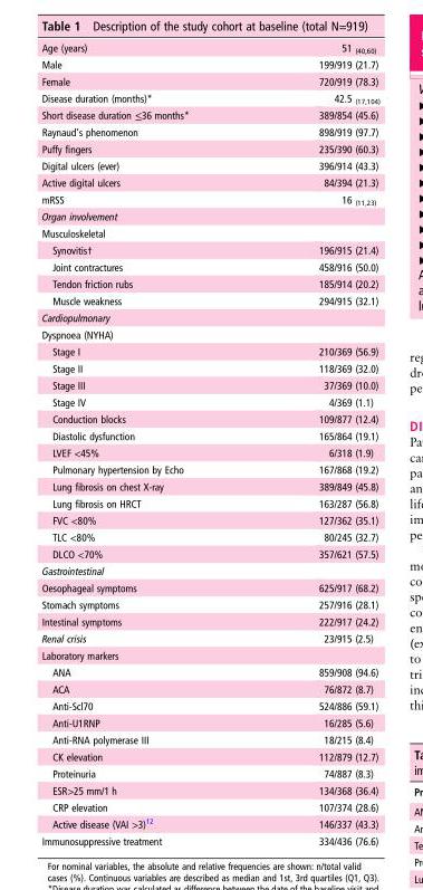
<table><tbody><tr><td>Age (years)</td><td>51 <sub>(40,60)</sub></td></tr><tr><td>Male</td><td>199/919 (21.7)</td></tr><tr><td>Female</td><td>720/919 (78.3)</td></tr><tr><td>Disease duration (months)*</td><td>42.5 <sub>(17,104)</sub></td></tr><tr><td>Short disease duration ≤36 months*</td><td>389/854 (45.6)</td></tr><tr><td>Raynaud’s phenomenon</td><td>898/919 (97.7)</td></tr><tr><td>Puffy fingers</td><td>235/390 (60.3)</td></tr><tr><td>Digital ulcers (ever)</td><td>396/914 (43.3)</td></tr><tr><td>Active digital ulcers</td><td>84/394 (21.3)</td></tr><tr><td>mRSS</td><td>16 <sub>(11,23)</sub></td></tr><tr><td colspan="2">Organ involvement</td></tr><tr><td colspan="2">Musculoskeletal</td></tr><tr><td>Synovitis†</td><td>196/915 (21.4)</td></tr><tr><td>Joint contractures</td><td>458/916 (50.0)</td></tr><tr><td>Tendon friction rubs</td><td>185/914 (20.2)</td></tr><tr><td>Muscle weakness</td><td>294/915 (32.1)</td></tr><tr><td colspan="2">Cardiopulmonary</td></tr><tr><td colspan="2">Dyspnoea (NYHA)</td></tr><tr><td>Stage I</td><td>210/369 (56.9)</td></tr><tr><td>Stage II</td><td>118/369 (32.0)</td></tr><tr><td>Stage III</td><td>37/369 (10.0)</td></tr><tr><td>Stage IV</td><td>4/369 (1.1)</td></tr><tr><td>Conduction blocks</td><td>109/877 (12.4)</td></tr><tr><td>Diastolic dysfunction</td><td>165/864 (19.1)</td></tr><tr><td>LVEF &lt;45%</td><td>6/318 (1.9)</td></tr><tr><td>Pulmonary hypertension by Echo</td><td>167/868 (19.2)</td></tr><tr><td>Lung fibrosis on chest X-ray</td><td>389/849 (45.8)</td></tr><tr><td>Lung fibrosis on HRCT</td><td>163/287 (56.8)</td></tr><tr><td>FVC &lt;80%</td><td>127/362 (35.1)</td></tr><tr><td>TLC &lt;80%</td><td>80/245 (32.7)</td></tr><tr><td>DLCO &lt;70%</td><td>357/621 (57.5)</td></tr><tr><td colspan="2">Gastrointestinal</td></tr><tr><td>Oesophageal symptoms</td><td>625/917 (68.2)</td></tr><tr><td>Stomach symptoms</td><td>257/916 (28.1)</td></tr><tr><td>Intestinal symptoms</td><td>222/917 (24.2)</td></tr><tr><td>Renal crisis</td><td>23/915 (2.5)</td></tr><tr><td colspan="2">Laboratory markers</td></tr><tr><td>ANA</td><td>859/908 (94.6)</td></tr><tr><td>ACA</td><td>76/872 (8.7)</td></tr><tr><td>Anti-Scl70</td><td>524/886 (59.1)</td></tr><tr><td>Anti-U1RNP</td><td>16/285 (5.6)</td></tr><tr><td>Anti-RNA polymerase III</td><td>18/215 (8.4)</td></tr><tr><td>CK elevation</td><td>112/879 (12.7)</td></tr><tr><td>Proteinuria</td><td>74/887 (8.3)</td></tr><tr><td>ESR&gt;25 mm/1 h</td><td>134/368 (36.4)</td></tr><tr><td>CRP elevation</td><td>107/374 (28.6)</td></tr><tr><td>Active disease (VAI &gt;3)<sup>12</sup></td><td>146/337 (43.3)</td></tr><tr><td>Immunosuppressive treatment</td><td>334/436 (76.6)</td></tr></tbody></table>